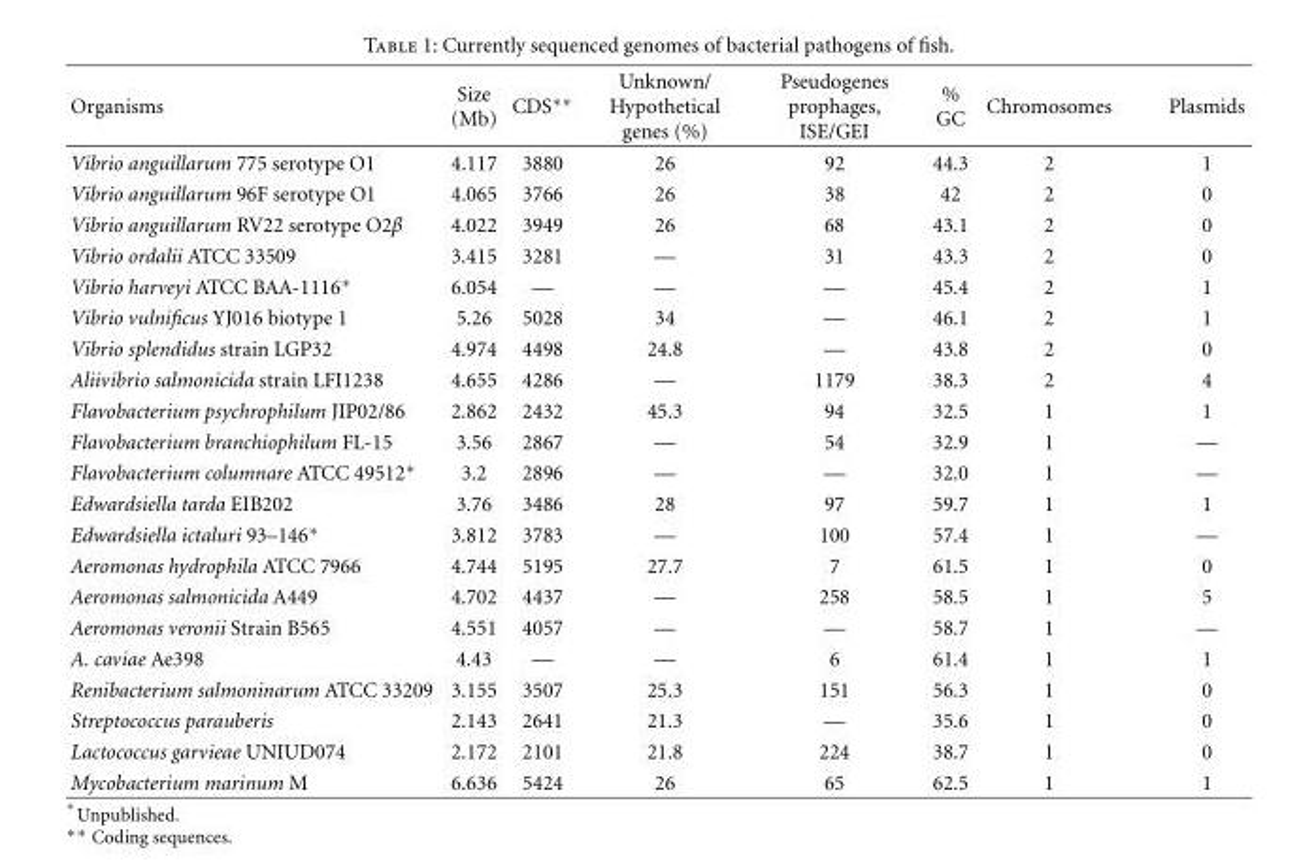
<table><thead><tr><td>Organisms</td><td>Size (Mb)</td><td>CDS∗∗</td><td>Unknown/ Hypothetical genes (%)</td><td>Pseudogenes prophages, ISE/GEI</td><td>% GC</td><td>Chromosomes</td><td>Plasmids</td></tr></thead><tbody><tr><td>Vibrio anguillarum 775 serotype O1</td><td>4.117</td><td>3880</td><td>26</td><td>92</td><td>44.3</td><td>2</td><td>1</td></tr><tr><td>Vibrio anguillarum 96F serotype O1</td><td>4.065</td><td>3766</td><td>26</td><td>38</td><td>42</td><td>2</td><td>0</td></tr><tr><td>Vibrio anguillarum RV22 serotype O2β</td><td>4.022</td><td>3949</td><td>26</td><td>68</td><td>43.1</td><td>2</td><td>0</td></tr><tr><td>Vibrio ordalii ATCC 33509</td><td>3.415</td><td>3281</td><td>—</td><td>31</td><td>43.3</td><td>2</td><td>0</td></tr><tr><td>Vibrio harveyi ATCC BAA-1116∗</td><td>6.054</td><td>—</td><td>—</td><td>—</td><td>45.4</td><td>2</td><td>1</td></tr><tr><td>Vibrio vulnificus YJ016 biotype 1</td><td>5.26</td><td>5028</td><td>34</td><td>—</td><td>46.1</td><td>2</td><td>1</td></tr><tr><td>Vibrio splendidus strain LGP32</td><td>4.974</td><td>4498</td><td>24.8</td><td>—</td><td>43.8</td><td>2</td><td>0</td></tr><tr><td>Aliivibrio salmonicida strain LFI1238</td><td>4.655</td><td>4286</td><td>—</td><td>1179</td><td>38.3</td><td>2</td><td>4</td></tr><tr><td>Flavobacterium psychrophilum JIP02/86</td><td>2.862</td><td>2432</td><td>45.3</td><td>94</td><td>32.5</td><td>1</td><td>1</td></tr><tr><td>Flavobacterium branchiophilum FL-15</td><td>3.56</td><td>2867</td><td>—</td><td>54</td><td>32.9</td><td>1</td><td>—</td></tr><tr><td>Flavobacterium columnare ATCC 49512∗</td><td>3.2</td><td>2896</td><td>—</td><td>—</td><td>32.0</td><td>1</td><td>—</td></tr><tr><td>Edwardsiella tarda EIB202</td><td>3.76</td><td>3486</td><td>28</td><td>97</td><td>59.7</td><td>1</td><td>1</td></tr><tr><td>Edwardsiella ictaluri 93–146∗</td><td>3.812</td><td>3783</td><td>—</td><td>100</td><td>57.4</td><td>1</td><td>—</td></tr><tr><td>Aeromonas hydrophila ATCC 7966</td><td>4.744</td><td>5195</td><td>27.7</td><td>7</td><td>61.5</td><td>1</td><td>0</td></tr><tr><td>Aeromonas salmonicida A449</td><td>4.702</td><td>4437</td><td>—</td><td>258</td><td>58.5</td><td>1</td><td>5</td></tr><tr><td>Aeromonas veronii Strain B565</td><td>4.551</td><td>4057</td><td>—</td><td>—</td><td>58.7</td><td>1</td><td>—</td></tr><tr><td>A. caviae Ae398</td><td>4.43</td><td>—</td><td>—</td><td>6</td><td>61.4</td><td>1</td><td>1</td></tr><tr><td>Renibacterium salmoninarum ATCC 33209</td><td>3.155</td><td>3507</td><td>25.3</td><td>151</td><td>56.3</td><td>1</td><td>0</td></tr><tr><td>Streptococcus parauberis</td><td>2.143</td><td>2641</td><td>21.3</td><td>—</td><td>35.6</td><td>1</td><td>0</td></tr><tr><td>Lactococcus garvieae UNIUD074</td><td>2.172</td><td>2101</td><td>21.8</td><td>224</td><td>38.7</td><td>1</td><td>0</td></tr><tr><td>Mycobacterium marinum M</td><td>6.636</td><td>5424</td><td>26</td><td>65</td><td>62.5</td><td>1</td><td>1</td></tr></tbody></table>